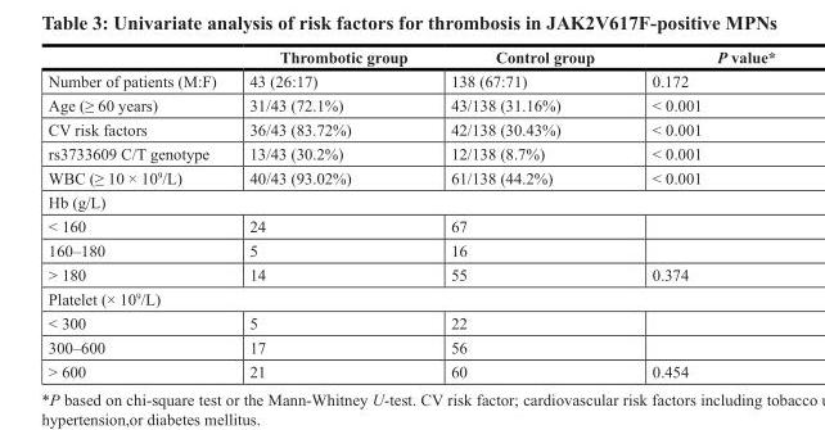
<table><thead><tr><td></td><td>Thrombotic group</td><td>Control group</td><td>P value﹡</td></tr></thead><tbody><tr><td>Number of patients (M:F)</td><td>43 (26:17)</td><td>138 (67:71)</td><td>0.172</td></tr><tr><td>Age (≥ 60 years)</td><td>31/43 (72.1%)</td><td>43/138 (31.16%)</td><td>&lt; 0.001</td></tr><tr><td>CV risk factors</td><td>36/43 (83.72%)</td><td>42/138 (30.43%)</td><td>&lt; 0.001</td></tr><tr><td>rs3733609 C/T genotype</td><td>13/43 (30.2%)</td><td>12/138 (8.7%)</td><td>&lt; 0.001</td></tr><tr><td>WBC (≥ 10 × 10<sup>9</sup>/L)</td><td>40/43 (93.02%)</td><td>61/138 (44.2%)</td><td>&lt; 0.001</td></tr><tr><td colspan="4">Hb (g/L)</td></tr><tr><td>&lt; 160</td><td>24</td><td>67</td><td></td></tr><tr><td>160–180</td><td>5</td><td>16</td><td></td></tr><tr><td>&gt; 180</td><td>14</td><td>55</td><td>0.374</td></tr><tr><td colspan="4">Platelet (× 10<sup>9</sup>/L)</td></tr><tr><td>&lt; 300</td><td>5</td><td>22</td><td></td></tr><tr><td>300–600</td><td>17</td><td>56</td><td></td></tr><tr><td>&gt; 600</td><td>21</td><td>60</td><td>0.454</td></tr></tbody></table>